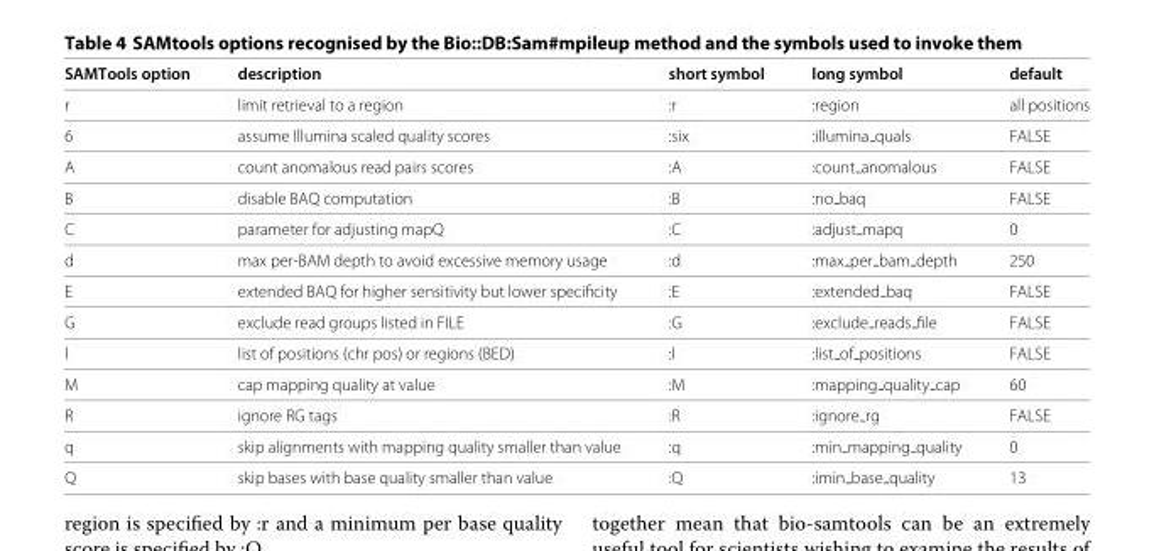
<table><thead><tr><td>SAMTools option</td><td>description</td><td>short symbol</td><td>long symbol</td><td>default</td></tr></thead><tbody><tr><td>r</td><td>limit retrieval to a region</td><td>:r</td><td>:region</td><td>all positions</td></tr><tr><td>6</td><td>assume Illumina scaled quality scores</td><td>:six</td><td>:illumina quals</td><td>FALSE</td></tr><tr><td>A</td><td>count anomalous read pairs scores</td><td>:A</td><td>:count anomalous</td><td>FALSE</td></tr><tr><td>B</td><td>disable BAQ computation</td><td>:B</td><td>:no baq</td><td>FALSE</td></tr><tr><td>C</td><td>parameter for adjusting mapQ</td><td>:C</td><td>:adjust mapq</td><td>0</td></tr><tr><td>d</td><td>max per-BAM depth to avoid excessive memory usage</td><td>:d</td><td>:max per bam depth</td><td>250</td></tr><tr><td>E</td><td>extended BAQ for higher sensitivity but lower specificity</td><td>:E</td><td>:extended baq</td><td>FALSE</td></tr><tr><td>G</td><td>exclude read groups listed in FILE</td><td>:G</td><td>:exclude <sub>reads</sub> file</td><td>FALSE</td></tr><tr><td>l</td><td>list of positions (chr pos) or regions (BED)</td><td>:l</td><td>:list <sub>of</sub> positions</td><td>FALSE</td></tr><tr><td>M</td><td>cap mapping quality at value</td><td>:M</td><td>:mapping <sub>quality</sub> cap</td><td>60</td></tr><tr><td>R</td><td>ignore RG tags</td><td>:R</td><td>:ignore rg</td><td>FALSE</td></tr><tr><td>q</td><td>skip alignments with mapping quality smaller than value</td><td>:q</td><td>:min <sub>mapping</sub> quality</td><td>0</td></tr><tr><td>Q</td><td>skip bases with base quality smaller than value</td><td>:Q</td><td>:imin <sub>base</sub> quality</td><td>13</td></tr></tbody></table>